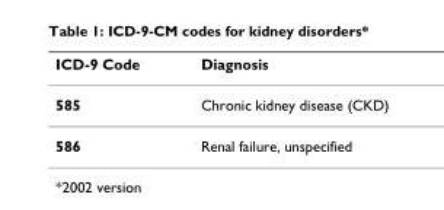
<table><thead><tr><td>ICD-9 Code</td><td>Diagnosis</td></tr></thead><tbody><tr><td>585</td><td>Chronic kidney disease (CKD)</td></tr><tr><td>586</td><td>Renal failure, unspecified</td></tr></tbody></table>